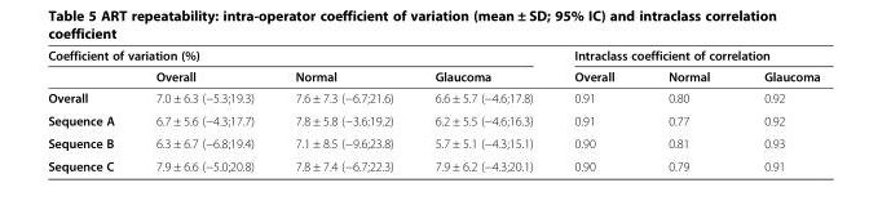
<table><thead><tr><td colspan="4">Coefficient of variation (%)</td><td colspan="3">Intraclass coefficient of correlation</td></tr><tr><td></td><td>Overall</td><td>Normal</td><td>Glaucoma</td><td>Overall</td><td>Normal</td><td>Glaucoma</td></tr></thead><tbody><tr><td>Overall</td><td>7.0 ± 6.3 (−5.3;19.3)</td><td>7.6 ± 7.3 (−6.7;21.6)</td><td>6.6 ± 5.7 (−4.6;17.8)</td><td>0.91</td><td>0.80</td><td>0.92</td></tr><tr><td>Sequence A</td><td>6.7 ± 5.6 (−4.3;17.7)</td><td>7.8 ± 5.8 (−3.6;19.2)</td><td>6.2 ± 5.5 (−4.6;16.3)</td><td>0.91</td><td>0.77</td><td>0.92</td></tr><tr><td>Sequence B</td><td>6.3 ± 6.7 (−6.8;19.4)</td><td>7.1 ± 8.5 (−9.6;23.8)</td><td>5.7 ± 5.1 (−4.3;15.1)</td><td>0.90</td><td>0.81</td><td>0.93</td></tr><tr><td>Sequence C</td><td>7.9 ± 6.6 (−5.0;20.8)</td><td>7.8 ± 7.4 (−6.7;22.3)</td><td>7.9 ± 6.2 (−4.3;20.1)</td><td>0.90</td><td>0.79</td><td>0.91</td></tr></tbody></table>